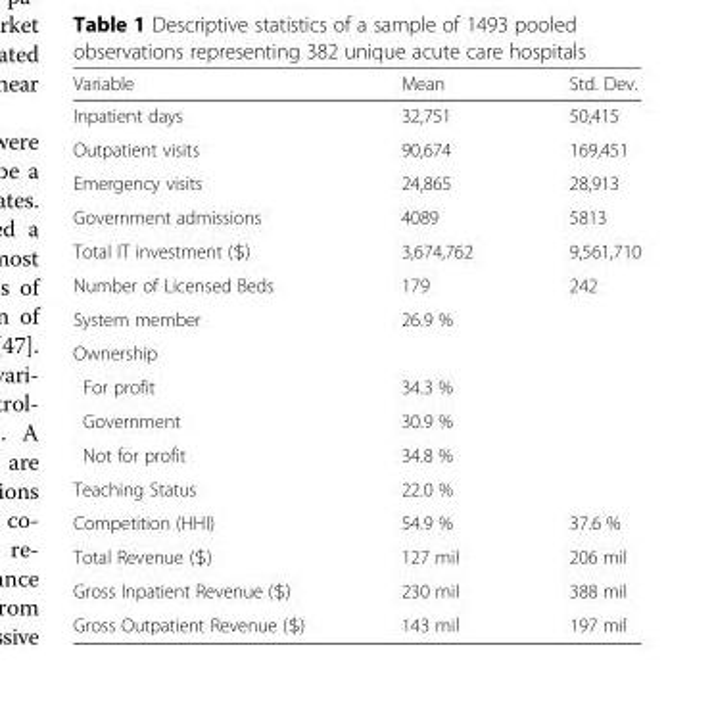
<table><thead><tr><td>Variable</td><td>Mean</td><td>Std. Dev.</td></tr></thead><tbody><tr><td>Inpatient days</td><td>32,751</td><td>50,415</td></tr><tr><td>Outpatient visits</td><td>90,674</td><td>169,451</td></tr><tr><td>Emergency visits</td><td>24,865</td><td>28,913</td></tr><tr><td>Government admissions</td><td>4089</td><td>5813</td></tr><tr><td>Total IT investment ($)</td><td>3,674,762</td><td>9,561,710</td></tr><tr><td>Number of Licensed Beds</td><td>179</td><td>242</td></tr><tr><td>System member</td><td>26.9 %</td><td></td></tr><tr><td colspan="3">Ownership</td></tr><tr><td>For profit</td><td>34.3 %</td><td></td></tr><tr><td>Government</td><td>30.9 %</td><td></td></tr><tr><td>Not for profit</td><td>34.8 %</td><td></td></tr><tr><td>Teaching Status</td><td>22.0 %</td><td></td></tr><tr><td>Competition (HHI)</td><td>54.9 %</td><td>37.6 %</td></tr><tr><td>Total Revenue ($)</td><td>127 mil</td><td>206 mil</td></tr><tr><td>Gross Inpatient Revenue ($)</td><td>230 mil</td><td>388 mil</td></tr><tr><td>Gross Outpatient Revenue ($)</td><td>143 mil</td><td>197 mil</td></tr></tbody></table>